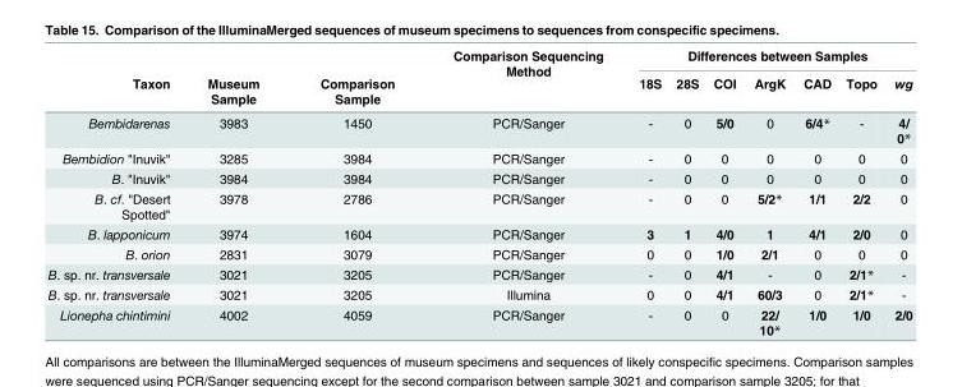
<table><thead><tr><td rowspan="2">Taxon</td><td rowspan="2">Museum Sample</td><td rowspan="2">Comparison Sample</td><td rowspan="2">Comparison Sequencing Method</td><td colspan="7">Differences between Samples</td></tr><tr><td>18S</td><td>28S</td><td>COI</td><td>ArgK</td><td>CAD</td><td>Topo</td><td>wg</td></tr></thead><tbody><tr><td>Bembidarenas</td><td>3983</td><td>1450</td><td>PCR/Sanger</td><td>-</td><td>0</td><td>5/0</td><td>0</td><td>6/4*</td><td>-</td><td>4/ 0*</td></tr><tr><td>Bembidion &quot;Inuvik&quot;</td><td>3285</td><td>3984</td><td>PCR/Sanger</td><td>-</td><td>0</td><td>0</td><td>0</td><td>0</td><td>0</td><td>0</td></tr><tr><td>B. &quot;Inuvik&quot;</td><td>3984</td><td>3984</td><td>PCR/Sanger</td><td>-</td><td>0</td><td>0</td><td>0</td><td>0</td><td>0</td><td>0</td></tr><tr><td>B. cf. &quot;Desert Spotted&quot;</td><td>3978</td><td>2786</td><td>PCR/Sanger</td><td>-</td><td>0</td><td>0</td><td>5/2*</td><td>1/1</td><td>2/2</td><td>0</td></tr><tr><td>B. lapponicum</td><td>3974</td><td>1604</td><td>PCR/Sanger</td><td>3</td><td>1</td><td>4/0</td><td>1</td><td>4/1</td><td>2/0</td><td>0</td></tr><tr><td>B. orion</td><td>2831</td><td>3079</td><td>PCR/Sanger</td><td>0</td><td>0</td><td>1/0</td><td>2/1</td><td>0</td><td>0</td><td>0</td></tr><tr><td>B. sp. nr. transversale</td><td>3021</td><td>3205</td><td>PCR/Sanger</td><td>-</td><td>0</td><td>4/1</td><td>-</td><td>0</td><td>2/1*</td><td>-</td></tr><tr><td>B. sp. nr. transversale</td><td>3021</td><td>3205</td><td>Illumina</td><td>0</td><td>0</td><td>4/1</td><td>60/3</td><td>0</td><td>2/1*</td><td>-</td></tr><tr><td>Lionepha chintimini</td><td>4002</td><td>4059</td><td>PCR/Sanger</td><td>-</td><td>0</td><td>0</td><td>22/ 10*</td><td>1/0</td><td>1/0</td><td>2/0</td></tr></tbody></table>